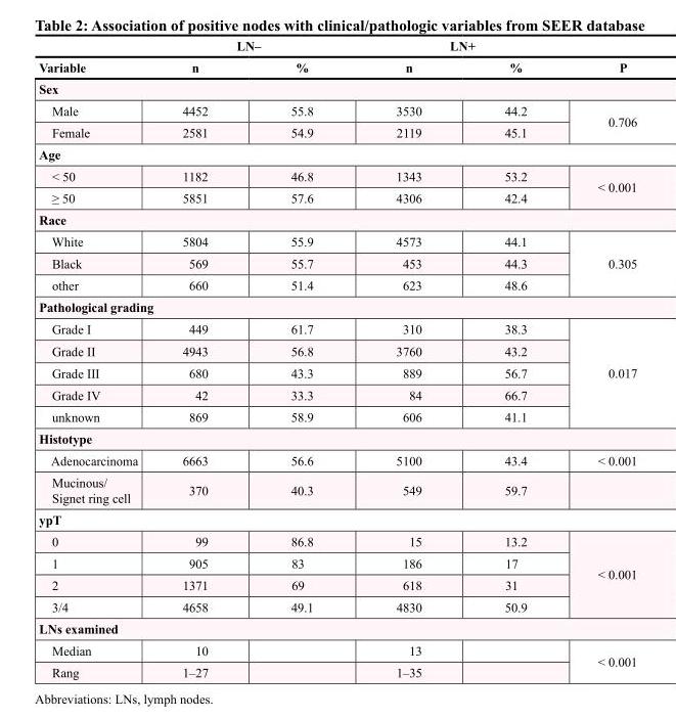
<table><thead><tr><td rowspan="2">Variable</td><td colspan="2">LN–</td><td colspan="2">LN+</td><td rowspan="2">P</td></tr><tr><td>n</td><td>%</td><td>n</td><td>%</td></tr></thead><tbody><tr><td colspan="6">Sex</td></tr><tr><td>Male</td><td>4452</td><td>55.8</td><td>3530</td><td>44.2</td><td rowspan="2">0.706</td></tr><tr><td>Female</td><td>2581</td><td>54.9</td><td>2119</td><td>45.1</td></tr><tr><td colspan="6">Age</td></tr><tr><td>&lt; 50</td><td>1182</td><td>46.8</td><td>1343</td><td>53.2</td><td rowspan="2">&lt; 0.001</td></tr><tr><td>≥ 50</td><td>5851</td><td>57.6</td><td>4306</td><td>42.4</td></tr><tr><td colspan="6">Race</td></tr><tr><td>White</td><td>5804</td><td>55.9</td><td>4573</td><td>44.1</td><td rowspan="3">0.305</td></tr><tr><td>Black</td><td>569</td><td>55.7</td><td>453</td><td>44.3</td></tr><tr><td>other</td><td>660</td><td>51.4</td><td>623</td><td>48.6</td></tr><tr><td colspan="6">Pathological grading</td></tr><tr><td>Grade I</td><td>449</td><td>61.7</td><td>310</td><td>38.3</td><td rowspan="5">0.017</td></tr><tr><td>Grade II</td><td>4943</td><td>56.8</td><td>3760</td><td>43.2</td></tr><tr><td>Grade III</td><td>680</td><td>43.3</td><td>889</td><td>56.7</td></tr><tr><td>Grade IV</td><td>42</td><td>33.3</td><td>84</td><td>66.7</td></tr><tr><td>unknown</td><td>869</td><td>58.9</td><td>606</td><td>41.1</td></tr><tr><td colspan="6">Histotype</td></tr><tr><td>Adenocarcinoma</td><td>6663</td><td>56.6</td><td>5100</td><td>43.4</td><td>&lt; 0.001</td></tr><tr><td>Mucinous/ Signet ring cell</td><td>370</td><td>40.3</td><td>549</td><td>59.7</td><td></td></tr><tr><td colspan="6">ypT</td></tr><tr><td>0</td><td>99</td><td>86.8</td><td>15</td><td>13.2</td><td rowspan="4">&lt; 0.001</td></tr><tr><td>1</td><td>905</td><td>83</td><td>186</td><td>17</td></tr><tr><td>2</td><td>1371</td><td>69</td><td>618</td><td>31</td></tr><tr><td>3/4</td><td>4658</td><td>49.1</td><td>4830</td><td>50.9</td></tr><tr><td colspan="6">LNs examined</td></tr><tr><td>Median</td><td>10</td><td></td><td>13</td><td></td><td rowspan="2">&lt; 0.001</td></tr><tr><td>Rang</td><td>1–27</td><td></td><td>1–35</td><td></td></tr></tbody></table>